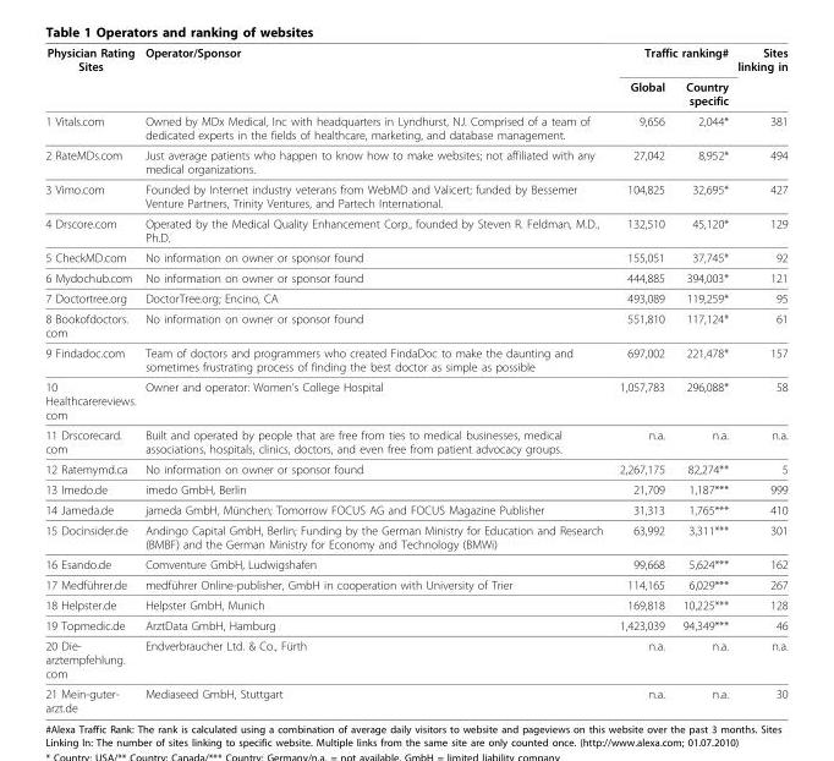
<table><thead><tr><td rowspan="2">Physician Rating Sites</td><td rowspan="2">Operator/Sponsor</td><td colspan="2">Traffic ranking#</td><td rowspan="2">Sites linking in</td></tr><tr><td>Global</td><td>Country specific</td></tr></thead><tbody><tr><td>1 Vitals.com</td><td>Owned by MDx Medical, Inc with headquarters in Lyndhurst, NJ. Comprised of a team of dedicated experts in the fields of healthcare, marketing, and database management.</td><td>9,656</td><td>2,044*</td><td>381</td></tr><tr><td>2 RateMDs.com</td><td>Just average patients who happen to know how to make websites; not affiliated with any medical organizations.</td><td>27,042</td><td>8,952*</td><td>494</td></tr><tr><td>3 Vimo.com</td><td>Founded by Internet industry veterans from WebMD and Valicert; funded by Bessemer Venture Partners, Trinity Ventures, and Partech International.</td><td>104,825</td><td>32,695*</td><td>427</td></tr><tr><td>4 Drscore.com</td><td>Operated by the Medical Quality Enhancement Corp., founded by Steven R. Feldman, M.D., Ph.D.</td><td>132,510</td><td>45,120*</td><td>129</td></tr><tr><td>5 CheckMD.com</td><td>No information on owner or sponsor found</td><td>155,051</td><td>37,745*</td><td>92</td></tr><tr><td>6 Mydochub.com</td><td>No information on owner or sponsor found</td><td>444,885</td><td>394,003*</td><td>121</td></tr><tr><td>7 Doctortree.org</td><td>DoctorTree.org; Encino, CA</td><td>493,089</td><td>119,259*</td><td>95</td></tr><tr><td>8 Bookofdoctors. com</td><td>No information on owner or sponsor found</td><td>551,810</td><td>117,124*</td><td>61</td></tr><tr><td>9 Findadoc.com</td><td>Team of doctors and programmers who created FindaDoc to make the daunting and sometimes frustrating process of finding the best doctor as simple as possible</td><td>697,002</td><td>221,478*</td><td>157</td></tr><tr><td>10 Healthcarereviews. com</td><td>Owner and operator: Women’s College Hospital</td><td>1,057,783</td><td>296,088*</td><td>58</td></tr><tr><td>11 Drscorecard. com</td><td>Built and operated by people that are free from ties to medical businesses, medical associations, hospitals, clinics, doctors, and even free from patient advocacy groups.</td><td>n.a.</td><td>n.a.</td><td>n.a.</td></tr><tr><td>12 Ratemymd.ca</td><td>No information on owner or sponsor found</td><td>2,267,175</td><td>82,274**</td><td>5</td></tr><tr><td>13 Imedo.de</td><td>imedo GmbH, Berlin</td><td>21,709</td><td>1,187***</td><td>999</td></tr><tr><td>14 Jameda.de</td><td>jameda GmbH, München; Tomorrow FOCUS AG and FOCUS Magazine Publisher</td><td>31,313</td><td>1,765***</td><td>410</td></tr><tr><td>15 Docinsider.de</td><td>Andingo Capital GmbH, Berlin; Funding by the German Ministry for Education and Research (BMBF) and the German Ministry for Economy and Technology (BMWi)</td><td>63,992</td><td>3,311***</td><td>301</td></tr><tr><td>16 Esando.de</td><td>Comventure GmbH, Ludwigshafen</td><td>99,668</td><td>5,624***</td><td>162</td></tr><tr><td>17 Medführer.de</td><td>medführer Online-publisher, GmbH in cooperation with University of Trier</td><td>114,165</td><td>6,029***</td><td>267</td></tr><tr><td>18 Helpster.de</td><td>Helpster GmbH, Munich</td><td>169,818</td><td>10,225***</td><td>128</td></tr><tr><td>19 Topmedic.de</td><td>ArztData GmbH, Hamburg</td><td>1,423,039</td><td>94,349***</td><td>46</td></tr><tr><td>20 Die- arztempfehlung. com</td><td>Endverbraucher Ltd. &amp; Co., Fürth</td><td>n.a.</td><td>n.a.</td><td>n.a.</td></tr><tr><td>21 Mein-guter- arzt.de</td><td>Mediaseed GmbH, Stuttgart</td><td>n.a.</td><td>n.a.</td><td>30</td></tr></tbody></table>